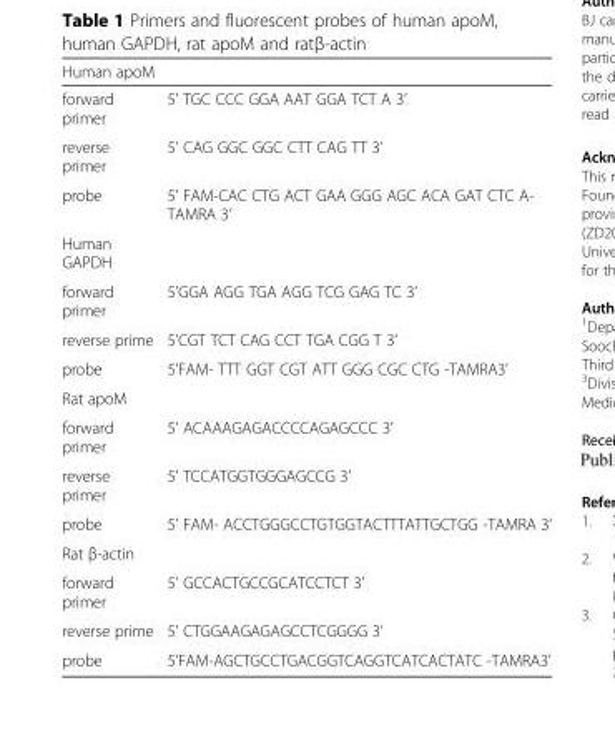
<table><thead><tr><td>Human apoM</td><td></td></tr></thead><tbody><tr><td>forward primer</td><td>5’ TGC CCC GGA AAT GGA TCT A 3’</td></tr><tr><td>reverse primer</td><td>5’ CAG GGC GGC CTT CAG TT 3’</td></tr><tr><td>probe</td><td>5’ FAM-CAC CTG ACT GAA GGG AGC ACA GAT CTC A- TAMRA 3’</td></tr><tr><td colspan="2">Human GAPDH</td></tr><tr><td>forward primer</td><td>5’GGA AGG TGA AGG TCG GAG TC 3’</td></tr><tr><td>reverse prime</td><td>5’CGT TCT CAG CCT TGA CGG T 3’</td></tr><tr><td>probe</td><td>5’FAM- TTT GGT CGT ATT GGG CGC CTG -TAMRA3’</td></tr><tr><td colspan="2">Rat apoM</td></tr><tr><td>forward primer</td><td>5’ ACAAAGAGACCCCAGAGCCC 3’</td></tr><tr><td>reverse primer</td><td>5’ TCCATGGTGGGAGCCG 3’</td></tr><tr><td>probe</td><td>5’ FAM- ACCTGGGCCTGTGGTACTTTATTGCTGG -TAMRA 3’</td></tr><tr><td colspan="2">Rat β-actin</td></tr><tr><td>forward primer</td><td>5’ GCCACTGCCGCATCCTCT 3’</td></tr><tr><td>reverse prime</td><td>5’ CTGGAAGAGAGCCTCGGGG 3’</td></tr><tr><td>probe</td><td>5’FAM-AGCTGCCTGACGGTCAGGTCATCACTATC -TAMRA3’</td></tr></tbody></table>